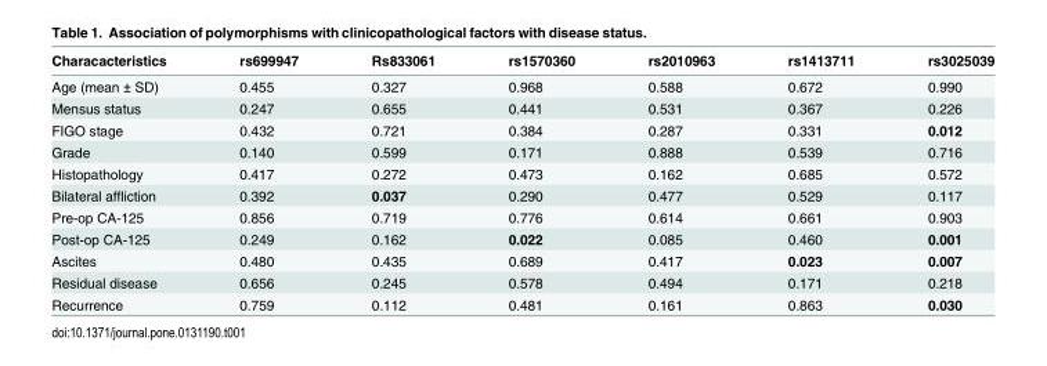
<table><thead><tr><td>Characacteristics</td><td>rs699947</td><td>Rs833061</td><td>rs1570360</td><td>rs2010963</td><td>rs1413711</td><td>rs3025039</td></tr></thead><tbody><tr><td>Age (mean ± SD)</td><td>0.455</td><td>0.327</td><td>0.968</td><td>0.588</td><td>0.672</td><td>0.990</td></tr><tr><td>Mensus status</td><td>0.247</td><td>0.655</td><td>0.441</td><td>0.531</td><td>0.367</td><td>0.226</td></tr><tr><td>FIGO stage</td><td>0.432</td><td>0.721</td><td>0.384</td><td>0.287</td><td>0.331</td><td>0.012</td></tr><tr><td>Grade</td><td>0.140</td><td>0.599</td><td>0.171</td><td>0.888</td><td>0.539</td><td>0.716</td></tr><tr><td>Histopathology</td><td>0.417</td><td>0.272</td><td>0.473</td><td>0.162</td><td>0.685</td><td>0.572</td></tr><tr><td>Bilateral affliction</td><td>0.392</td><td>0.037</td><td>0.290</td><td>0.477</td><td>0.529</td><td>0.117</td></tr><tr><td>Pre-op CA-125</td><td>0.856</td><td>0.719</td><td>0.776</td><td>0.614</td><td>0.661</td><td>0.903</td></tr><tr><td>Post-op CA-125</td><td>0.249</td><td>0.162</td><td>0.022</td><td>0.085</td><td>0.460</td><td>0.001</td></tr><tr><td>Ascites</td><td>0.480</td><td>0.435</td><td>0.689</td><td>0.417</td><td>0.023</td><td>0.007</td></tr><tr><td>Residual disease</td><td>0.656</td><td>0.245</td><td>0.578</td><td>0.494</td><td>0.171</td><td>0.218</td></tr><tr><td>Recurrence</td><td>0.759</td><td>0.112</td><td>0.481</td><td>0.161</td><td>0.863</td><td>0.030</td></tr></tbody></table>